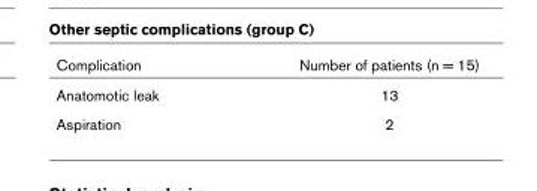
<table><thead><tr><td>Complication</td><td>Number of patients (n = 15)</td></tr></thead><tbody><tr><td>Anatomotic leak</td><td>13</td></tr><tr><td>Aspiration</td><td>2</td></tr></tbody></table>